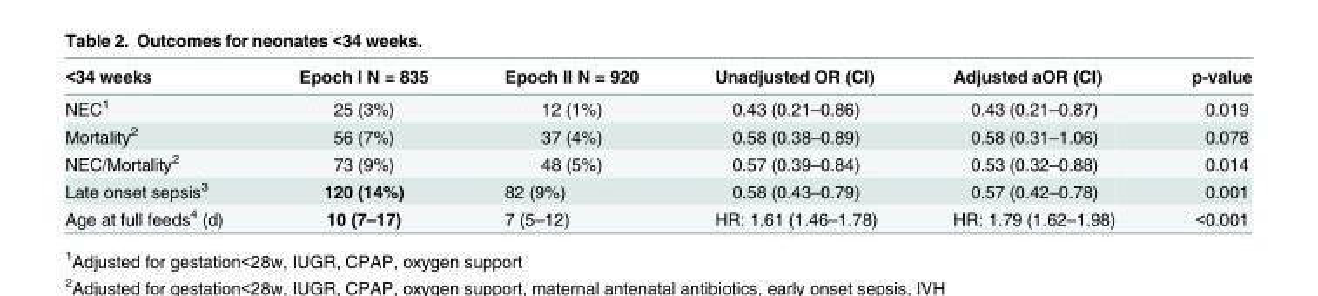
<table><thead><tr><td>&lt;34 weeks</td><td>Epoch I N = 835</td><td>Epoch II N = 920</td><td>Unadjusted OR (CI)</td><td>Adjusted aOR (CI)</td><td>p-value</td></tr></thead><tbody><tr><td>NEC<sup>1</sup></td><td>25 (3%)</td><td>12 (1%)</td><td>0.43 (0.21–0.86)</td><td>0.43 (0.21–0.87)</td><td>0.019</td></tr><tr><td>Mortality<sup>2</sup></td><td>56 (7%)</td><td>37 (4%)</td><td>0.58 (0.38–0.89)</td><td>0.58 (0.31–1.06)</td><td>0.078</td></tr><tr><td>NEC/Mortality<sup>2</sup></td><td>73 (9%)</td><td>48 (5%)</td><td>0.57 (0.39–0.84)</td><td>0.53 (0.32–0.88)</td><td>0.014</td></tr><tr><td>Late onset sepsis<sup>3</sup></td><td>120 (14%)</td><td>82 (9%)</td><td>0.58 (0.43–0.79)</td><td>0.57 (0.42–0.78)</td><td>0.001</td></tr><tr><td>Age at full feeds<sup>4</sup> (d)</td><td>10 (7–17)</td><td>7 (5–12)</td><td>HR: 1.61 (1.46–1.78)</td><td>HR: 1.79 (1.62–1.98)</td><td>&lt;0.001</td></tr></tbody></table>